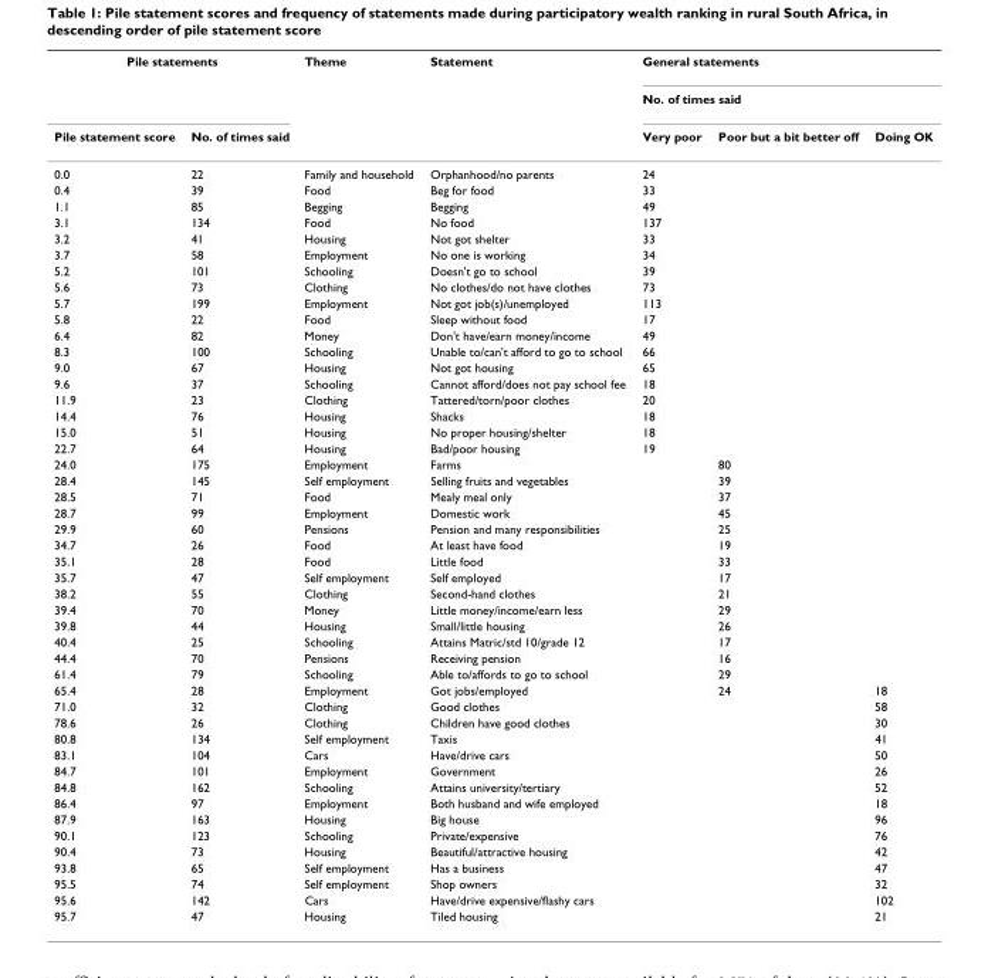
<table><thead><tr><td colspan="2">Pile statements</td><td rowspan="3">Theme</td><td rowspan="3">Statement</td><td rowspan="2" colspan="3">General statements No. of times said</td></tr><tr><td rowspan="2">Pile statement score</td><td rowspan="2">No. of times said</td></tr><tr><td>Very poor</td><td>Poor but a bit better off</td><td>Doing OK</td></tr></thead><tbody><tr><td>0.0</td><td>22</td><td>Family and household</td><td>Orphanhood/no parents</td><td>24</td><td></td><td></td></tr><tr><td>0.4</td><td>39</td><td>Food</td><td>Beg for food</td><td>33</td><td></td><td></td></tr><tr><td>1.1</td><td>85</td><td>Begging</td><td>Begging</td><td>49</td><td></td><td></td></tr><tr><td>3.1</td><td>134</td><td>Food</td><td>No food</td><td>137</td><td></td><td></td></tr><tr><td>3.2</td><td>41</td><td>Housing</td><td>Not got shelter</td><td>33</td><td></td><td></td></tr><tr><td>3.7</td><td>58</td><td>Employment</td><td>No one is working</td><td>34</td><td></td><td></td></tr><tr><td>5.2</td><td>101</td><td>Schooling</td><td>Doesn&#x27;t go to school</td><td>39</td><td></td><td></td></tr><tr><td>5.6</td><td>73</td><td>Clothing</td><td>No clothes/do not have clothes</td><td>73</td><td></td><td></td></tr><tr><td>5.7</td><td>199</td><td>Employment</td><td>Not got job(s)/unemployed</td><td>113</td><td></td><td></td></tr><tr><td>5.8</td><td>22</td><td>Food</td><td>Sleep without food</td><td>17</td><td></td><td></td></tr><tr><td>6.4</td><td>82</td><td>Money</td><td>Don&#x27;t have/earn money/income</td><td>49</td><td></td><td></td></tr><tr><td>8.3</td><td>100</td><td>Schooling</td><td>Unable to/can&#x27;t afford to go to school</td><td>66</td><td></td><td></td></tr><tr><td>9.0</td><td>67</td><td>Housing</td><td>Not got housing</td><td>65</td><td></td><td></td></tr><tr><td>9.6</td><td>37</td><td>Schooling</td><td>Cannot afford/does not pay school fee</td><td>18</td><td></td><td></td></tr><tr><td>11.9</td><td>23</td><td>Clothing</td><td>Tattered/torn/poor clothes</td><td>20</td><td></td><td></td></tr><tr><td>14.4</td><td>76</td><td>Housing</td><td>Shacks</td><td>18</td><td></td><td></td></tr><tr><td>15.0</td><td>51</td><td>Housing</td><td>No proper housing/shelter</td><td>18</td><td></td><td></td></tr><tr><td>22.7</td><td>64</td><td>Housing</td><td>Bad/poor housing</td><td>19</td><td></td><td></td></tr><tr><td>24.0</td><td>175</td><td>Employment</td><td>Farms</td><td></td><td>80</td><td></td></tr><tr><td>28.4</td><td>145</td><td>Self employment</td><td>Selling fruits and vegetables</td><td></td><td>39</td><td></td></tr><tr><td>28.5</td><td>71</td><td>Food</td><td>Mealy meal only</td><td></td><td>37</td><td></td></tr><tr><td>28.7</td><td>99</td><td>Employment</td><td>Domestic work</td><td></td><td>45</td><td></td></tr><tr><td>29.9</td><td>60</td><td>Pensions</td><td>Pension and many responsibilities</td><td></td><td>25</td><td></td></tr><tr><td>34.7</td><td>26</td><td>Food</td><td>At least have food</td><td></td><td>19</td><td></td></tr><tr><td>35.1</td><td>28</td><td>Food</td><td>Little food</td><td></td><td>33</td><td></td></tr><tr><td>35.7</td><td>47</td><td>Self employment</td><td>Self employed</td><td></td><td>17</td><td></td></tr><tr><td>38.2</td><td>55</td><td>Clothing</td><td>Second-hand clothes</td><td></td><td>21</td><td></td></tr><tr><td>39.4</td><td>70</td><td>Money</td><td>Little money/income/earn less</td><td></td><td>29</td><td></td></tr><tr><td>39.8</td><td>44</td><td>Housing</td><td>Small/little housing</td><td></td><td>26</td><td></td></tr><tr><td>40.4</td><td>25</td><td>Schooling</td><td>Attains Matric/std 10/grade 12</td><td></td><td>17</td><td></td></tr><tr><td>44.4</td><td>70</td><td>Pensions</td><td>Receiving pension</td><td></td><td>16</td><td></td></tr><tr><td>61.4</td><td>79</td><td>Schooling</td><td>Able to/affords to go to school</td><td></td><td>29</td><td></td></tr><tr><td>65.4</td><td>28</td><td>Employment</td><td>Got jobs/employed</td><td></td><td>24</td><td>18</td></tr><tr><td>71.0</td><td>32</td><td>Clothing</td><td>Good clothes</td><td></td><td></td><td>58</td></tr><tr><td>78.6</td><td>26</td><td>Clothing</td><td>Children have good clothes</td><td></td><td></td><td>30</td></tr><tr><td>80.8</td><td>134</td><td>Self employment</td><td>Taxis</td><td></td><td></td><td>41</td></tr><tr><td>83.1</td><td>104</td><td>Cars</td><td>Have/drive cars</td><td></td><td></td><td>50</td></tr><tr><td>84.7</td><td>101</td><td>Employment</td><td>Government</td><td></td><td></td><td>26</td></tr><tr><td>84.8</td><td>162</td><td>Schooling</td><td>Attains university/tertiary</td><td></td><td></td><td>52</td></tr><tr><td>86.4</td><td>97</td><td>Employment</td><td>Both husband and wife employed</td><td></td><td></td><td>18</td></tr><tr><td>87.9</td><td>163</td><td>Housing</td><td>Big house</td><td></td><td></td><td>96</td></tr><tr><td>90.1</td><td>123</td><td>Schooling</td><td>Private/expensive</td><td></td><td></td><td>76</td></tr><tr><td>90.4</td><td>73</td><td>Housing</td><td>Beautiful/attractive housing</td><td></td><td></td><td>42</td></tr><tr><td>93.8</td><td>65</td><td>Self employment</td><td>Has a business</td><td></td><td></td><td>47</td></tr><tr><td>95.5</td><td>74</td><td>Self employment</td><td>Shop owners</td><td></td><td></td><td>32</td></tr><tr><td>95.6</td><td>142</td><td>Cars</td><td>Have/drive expensive/flashy cars</td><td></td><td></td><td>102</td></tr><tr><td>95.7</td><td>47</td><td>Housing</td><td>Tiled housing</td><td></td><td></td><td>21</td></tr></tbody></table>